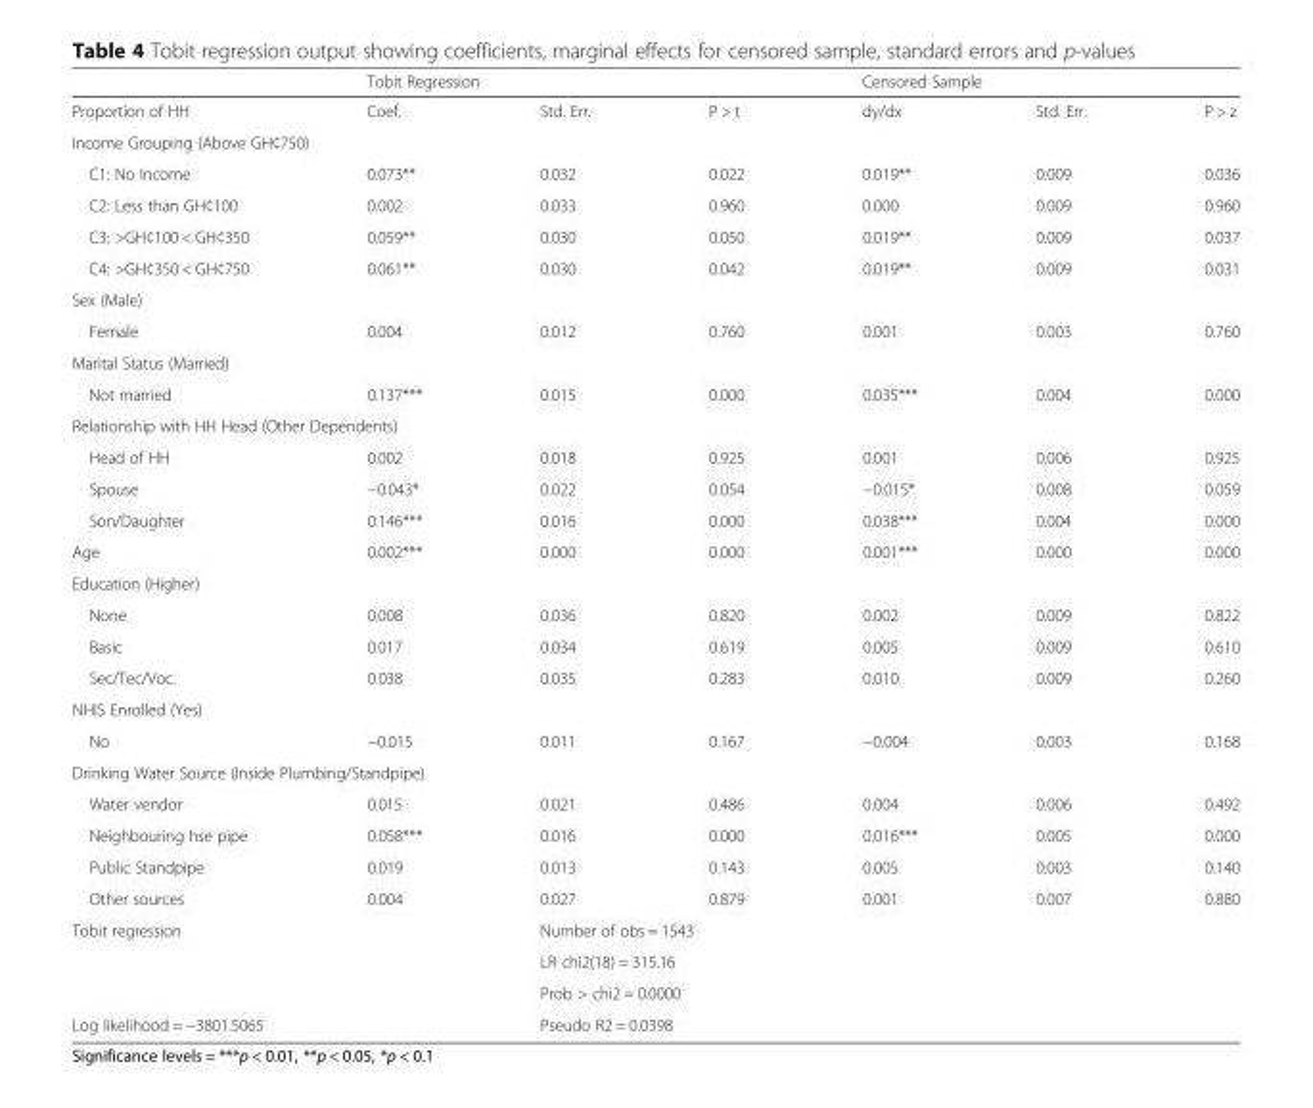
<table><thead><tr><td rowspan="2">Proportion of HH</td><td colspan="3">Tobit Regression</td><td colspan="3">Censored Sample</td></tr><tr><td>Coef.</td><td>Std. Err.</td><td>P &gt; t</td><td>dy/dx</td><td>Std. Err.</td><td>P &gt; z</td></tr></thead><tbody><tr><td colspan="7">Income Grouping (Above GH¢750)</td></tr><tr><td>C1: No Income</td><td>0.073**</td><td>0.032</td><td>0.022</td><td>0.019**</td><td>0.009</td><td>0.036</td></tr><tr><td>C2: Less than GH¢100</td><td>0.002</td><td>0.033</td><td>0.960</td><td>0.000</td><td>0.009</td><td>0.960</td></tr><tr><td>C3: &gt;GH¢100 &lt; GH¢350</td><td>0.059**</td><td>0.030</td><td>0.050</td><td>0.019**</td><td>0.009</td><td>0.037</td></tr><tr><td>C4: &gt;GH¢350 &lt; GH¢750</td><td>0.061**</td><td>0.030</td><td>0.042</td><td>0.019**</td><td>0.009</td><td>0.031</td></tr><tr><td colspan="7">Sex (Male)</td></tr><tr><td>Female</td><td>0.004</td><td>0.012</td><td>0.760</td><td>0.001</td><td>0.003</td><td>0.760</td></tr><tr><td colspan="7">Marital Status (Married)</td></tr><tr><td>Not married</td><td>0.137***</td><td>0.015</td><td>0.000</td><td>0.035***</td><td>0.004</td><td>0.000</td></tr><tr><td colspan="7">Relationship with HH Head (Other Dependents)</td></tr><tr><td>Head of HH</td><td>0.002</td><td>0.018</td><td>0.925</td><td>0.001</td><td>0.006</td><td>0.925</td></tr><tr><td>Spouse</td><td>−0.043*</td><td>0.022</td><td>0.054</td><td>−0.015*</td><td>0.008</td><td>0.059</td></tr><tr><td>Son/Daughter</td><td>0.146***</td><td>0.016</td><td>0.000</td><td>0.038***</td><td>0.004</td><td>0.000</td></tr><tr><td>Age</td><td>0.002***</td><td>0.000</td><td>0.000</td><td>0.001***</td><td>0.000</td><td>0.000</td></tr><tr><td colspan="7">Education (Higher)</td></tr><tr><td>None</td><td>0.008</td><td>0.036</td><td>0.820</td><td>0.002</td><td>0.009</td><td>0.822</td></tr><tr><td>Basic</td><td>0.017</td><td>0.034</td><td>0.619</td><td>0.005</td><td>0.009</td><td>0.610</td></tr><tr><td>Sec/Tec/Voc.</td><td>0.038</td><td>0.035</td><td>0.283</td><td>0.010</td><td>0.009</td><td>0.260</td></tr><tr><td colspan="7">NHIS Enrolled (Yes)</td></tr><tr><td>No</td><td>−0.015</td><td>0.011</td><td>0.167</td><td>−0.004</td><td>0.003</td><td>0.168</td></tr><tr><td colspan="7">Drinking Water Source (Inside Plumbing/Standpipe)</td></tr><tr><td>Water vendor</td><td>0.015</td><td>0.021</td><td>0.486</td><td>0.004</td><td>0.006</td><td>0.492</td></tr><tr><td>Neighbouring hse pipe</td><td>0.058***</td><td>0.016</td><td>0.000</td><td>0.016***</td><td>0.005</td><td>0.000</td></tr><tr><td>Public Standpipe</td><td>0.019</td><td>0.013</td><td>0.143</td><td>0.005</td><td>0.003</td><td>0.140</td></tr><tr><td>Other sources</td><td>0.004</td><td>0.027</td><td>0.879</td><td>0.001</td><td>0.007</td><td>0.880</td></tr><tr><td rowspan="3" colspan="2">Tobit regression</td><td colspan="3">Number of obs = 1543</td><td></td><td></td></tr><tr><td colspan="3">LR chi2(18) = 315.16</td><td></td><td></td></tr><tr><td colspan="3">Prob &gt; chi2 = 0.0000</td><td></td><td></td></tr><tr><td colspan="2">Log likelihood = −3801.5065</td><td colspan="3">Pseudo R2 = 0.0398</td><td></td><td></td></tr></tbody></table>